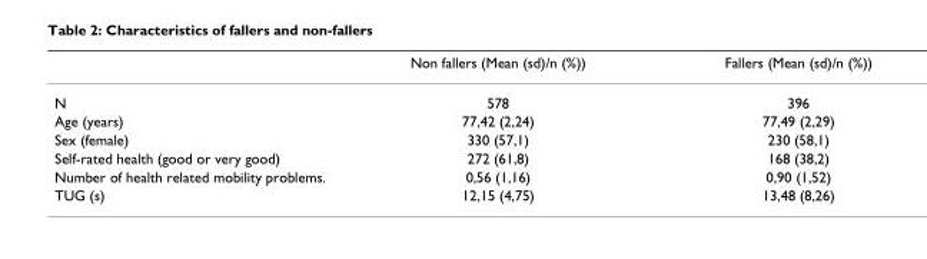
<table><thead><tr><td></td><td>Non fallers (Mean (sd)/n (%))</td><td>Fallers (Mean (sd)/n (%))</td></tr></thead><tbody><tr><td>N</td><td>578</td><td>396</td></tr><tr><td>Age (years)</td><td>77,42 (2,24)</td><td>77,49 (2,29)</td></tr><tr><td>Sex (female)</td><td>330 (57,1)</td><td>230 (58,1)</td></tr><tr><td>Self-rated health (good or very good)</td><td>272 (61,8)</td><td>168 (38,2)</td></tr><tr><td>Number of health related mobility problems.</td><td>0,56 (1,16)</td><td>0,90 (1,52)</td></tr><tr><td>TUG (s)</td><td>12,15 (4,75)</td><td>13,48 (8,26)</td></tr></tbody></table>